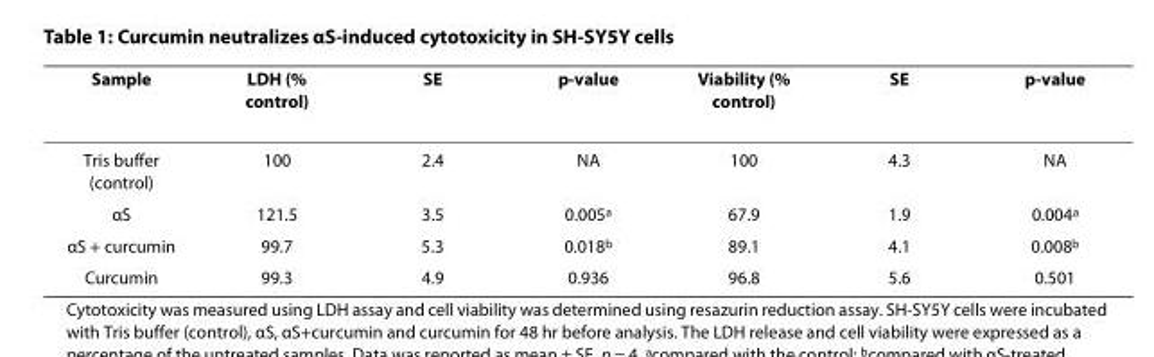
<table><thead><tr><td>Sample</td><td>LDH (% control)</td><td>SE</td><td>p-value</td><td>Viability (% control)</td><td>SE</td><td>p-value</td></tr></thead><tbody><tr><td>Tris buffer (control)</td><td>100</td><td>2.4</td><td>NA</td><td>100</td><td>4.3</td><td>NA</td></tr><tr><td>αS</td><td>121.5</td><td>3.5</td><td>0.005<sup>a</sup></td><td>67.9</td><td>1.9</td><td>0.004<sup>a</sup></td></tr><tr><td>αS + curcumin</td><td>99.7</td><td>5.3</td><td>0.018<sup>b</sup></td><td>89.1</td><td>4.1</td><td>0.008<sup>b</sup></td></tr><tr><td>Curcumin</td><td>99.3</td><td>4.9</td><td>0.936</td><td>96.8</td><td>5.6</td><td>0.501</td></tr></tbody></table>